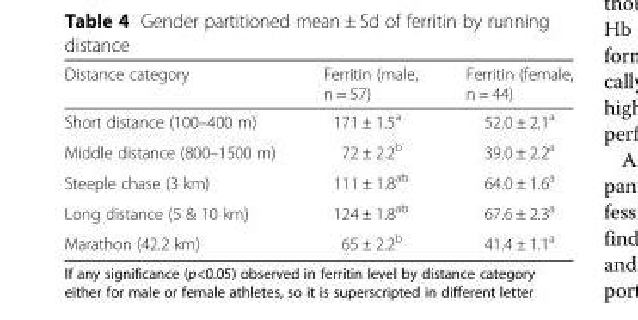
<table><thead><tr><td>Distance category</td><td>Ferritin (male, n = 57)</td><td>Ferritin (female, n = 44)</td></tr></thead><tbody><tr><td>Short distance (100–400 m)</td><td>171 ± 1.5<sup>a</sup></td><td>52.0 ± 2.1<sup>a</sup></td></tr><tr><td>Middle distance (800–1500 m)</td><td>72 ± 2.2<sup>b</sup></td><td>39.0 ± 2.2<sup>a</sup></td></tr><tr><td>Steeple chase (3 km)</td><td>111 ± 1.8<sup>ab</sup></td><td>64.0 ± 1.6<sup>a</sup></td></tr><tr><td>Long distance (5 &amp; 10 km)</td><td>124 ± 1.8<sup>ab</sup></td><td>67.6 ± 2.3<sup>a</sup></td></tr><tr><td>Marathon (42.2 km)</td><td>65 ± 2.2<sup>b</sup></td><td>41.4 ± 1.1<sup>a</sup></td></tr></tbody></table>